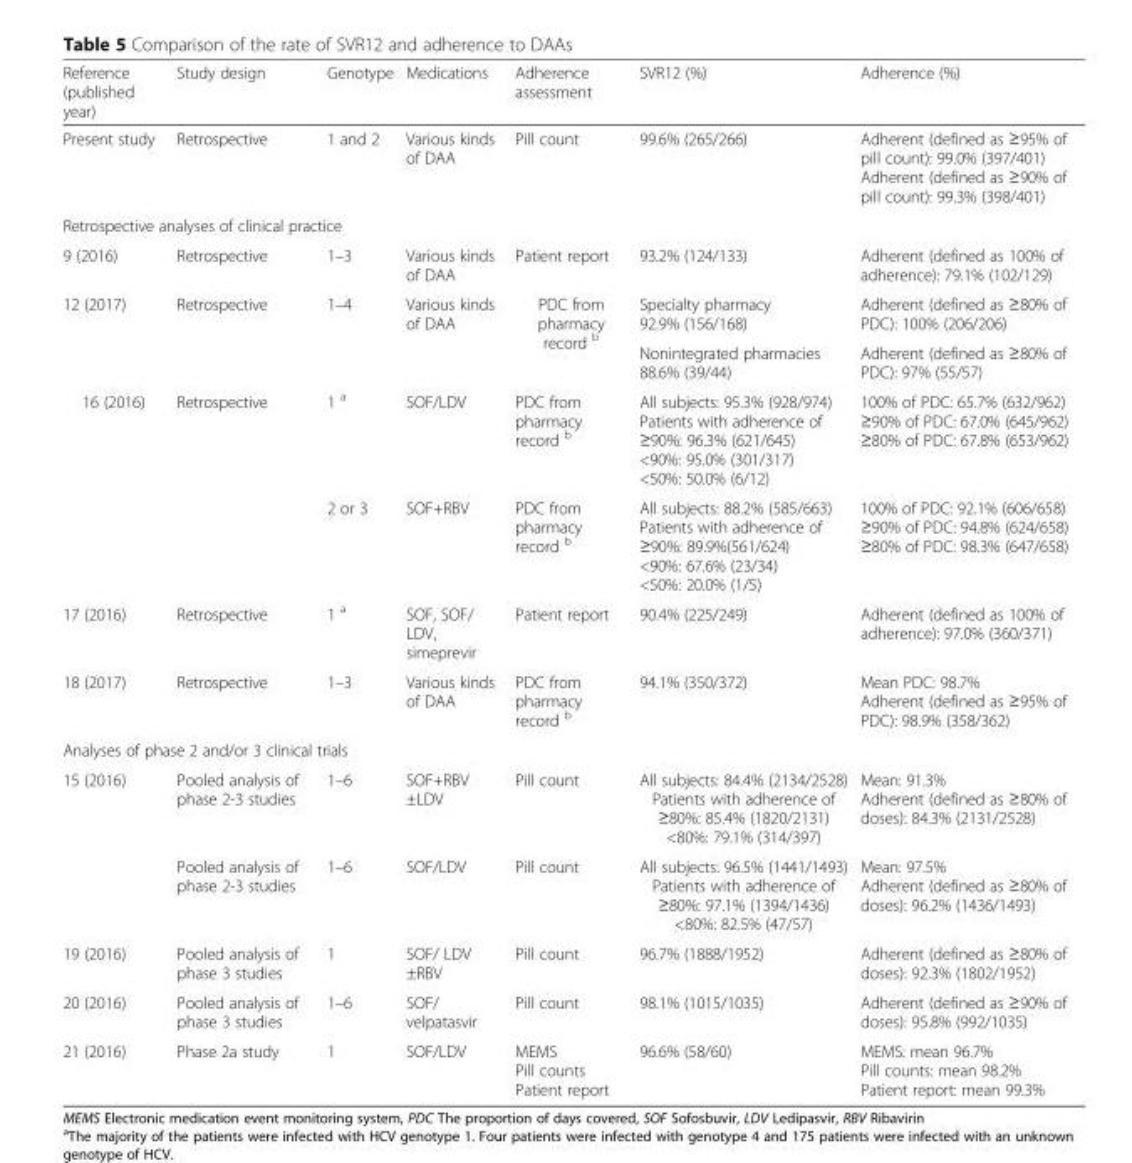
<table><thead><tr><td>Reference (published year)</td><td>Study design</td><td>Genotype</td><td>Medications</td><td>Adherence assessment</td><td>SVR12 (%)</td><td>Adherence (%)</td></tr></thead><tbody><tr><td>Present study</td><td>Retrospective</td><td>1 and 2</td><td>Various kinds of DAA</td><td>Pill count</td><td>99.6% (265/266)</td><td>Adherent (defined as ≥95% of pill count): 99.0% (397/401) Adherent (defined as ≥90% of pill count): 99.3% (398/401)</td></tr><tr><td colspan="7">Retrospective analyses of clinical practice</td></tr><tr><td>9 (2016)</td><td>Retrospective</td><td>1–3</td><td>Various kinds of DAA</td><td>Patient report</td><td>93.2% (124/133)</td><td>Adherent (defined as 100% of adherence): 79.1% (102/129)</td></tr><tr><td rowspan="2">12 (2017)</td><td rowspan="2">Retrospective</td><td rowspan="2">1–4</td><td rowspan="2">Various kinds of DAA</td><td rowspan="2">PDC from pharmacy record <sup>b</sup></td><td>Specialty pharmacy 92.9% (156/168)</td><td>Adherent (defined as ≥80% of PDC): 100% (206/206)</td></tr><tr><td>Nonintegrated pharmacies 88.6% (39/44)</td><td>Adherent (defined as ≥80% of PDC): 97% (55/57)</td></tr><tr><td rowspan="2">16 (2016)</td><td rowspan="2">Retrospective</td><td>1 <sup>a</sup></td><td>SOF/LDV</td><td>PDC from pharmacy record <sup>b</sup></td><td>All subjects: 95.3% (928/974) Patients with adherence of ≥90%: 96.3% (621/645) &lt;90%: 95.0% (301/317) &lt;50%: 50.0% (6/12)</td><td>100% of PDC: 65.7% (632/962) ≥90% of PDC: 67.0% (645/962) ≥80% of PDC: 67.8% (653/962)</td></tr><tr><td>2 or 3</td><td>SOF+RBV</td><td>PDC from pharmacy record <sup>b</sup></td><td>All subjects: 88.2% (585/663) Patients with adherence of ≥90%: 89.9%(561/624) &lt;90%: 67.6% (23/34) &lt;50%: 20.0% (1/5)</td><td>100% of PDC: 92.1% (606/658) ≥90% of PDC: 94.8% (624/658) ≥80% of PDC: 98.3% (647/658)</td></tr><tr><td>17 (2016)</td><td>Retrospective</td><td>1 <sup>a</sup></td><td>SOF, SOF/ LDV, simeprevir</td><td>Patient report</td><td>90.4% (225/249)</td><td>Adherent (defined as 100% of adherence): 97.0% (360/371)</td></tr><tr><td>18 (2017)</td><td>Retrospective</td><td>1–3</td><td>Various kinds of DAA</td><td>PDC from pharmacy record <sup>b</sup></td><td>94.1% (350/372)</td><td>Mean PDC: 98.7% Adherent (defined as ≥95% of PDC): 98.9% (358/362)</td></tr><tr><td colspan="7">Analyses of phase 2 and/or 3 clinical trials</td></tr><tr><td rowspan="2">15 (2016)</td><td>Pooled analysis of phase 2-3 studies</td><td>1–6</td><td>SOF+RBV ±LDV</td><td>Pill count</td><td>All subjects: 84.4% (2134/2528) Patients with adherence of ≥80%: 85.4% (1820/2131) &lt;80%: 79.1% (314/397)</td><td>Mean: 91.3% Adherent (defined as ≥80% of doses): 84.3% (2131/2528)</td></tr><tr><td>Pooled analysis of phase 2-3 studies</td><td>1–6</td><td>SOF/LDV</td><td>Pill count</td><td>All subjects: 96.5% (1441/1493) Patients with adherence of ≥80%: 97.1% (1394/1436) &lt;80%: 82.5% (47/57)</td><td>Mean: 97.5% Adherent (defined as ≥80% of doses): 96.2% (1436/1493)</td></tr><tr><td>19 (2016)</td><td>Pooled analysis of phase 3 studies</td><td>1</td><td>SOF/ LDV ±RBV</td><td>Pill count</td><td>96.7% (1888/1952)</td><td>Adherent (defined as ≥80% of doses): 92.3% (1802/1952)</td></tr><tr><td>20 (2016)</td><td>Pooled analysis of phase 3 studies</td><td>1–6</td><td>SOF/ velpatasvir</td><td>Pill count</td><td>98.1% (1015/1035)</td><td>Adherent (defined as ≥90% of doses): 95.8% (992/1035)</td></tr><tr><td>21 (2016)</td><td>Phase 2a study</td><td>1</td><td>SOF/LDV</td><td>MEMS Pill counts Patient report</td><td>96.6% (58/60)</td><td>MEMS: mean 96.7% Pill counts: mean 98.2% Patient report: mean 99.3%</td></tr></tbody></table>